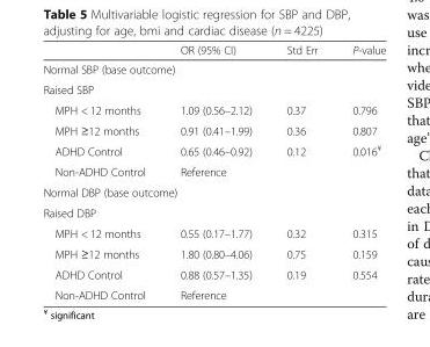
<table><thead><tr><td></td><td>OR (95% CI)</td><td>Std Err</td><td>P-value</td></tr></thead><tbody><tr><td colspan="4">Normal SBP (base outcome)</td></tr><tr><td colspan="4">Raised SBP</td></tr><tr><td>MPH &lt; 12 months</td><td>1.09 (0.56–2.12)</td><td>0.37</td><td>0.796</td></tr><tr><td>MPH ≥12 months</td><td>0.91 (0.41–1.99)</td><td>0.36</td><td>0.807</td></tr><tr><td>ADHD Control</td><td>0.65 (0.46–0.92)</td><td>0.12</td><td>0.016<sup>¥</sup></td></tr><tr><td>Non-ADHD Control</td><td>Reference</td><td></td><td></td></tr><tr><td colspan="4">Normal DBP (base outcome)</td></tr><tr><td colspan="4">Raised DBP</td></tr><tr><td>MPH &lt; 12 months</td><td>0.55 (0.17–1.77)</td><td>0.32</td><td>0.315</td></tr><tr><td>MPH ≥12 months</td><td>1.80 (0.80–4.06)</td><td>0.75</td><td>0.159</td></tr><tr><td>ADHD Control</td><td>0.88 (0.57–1.35)</td><td>0.19</td><td>0.554</td></tr><tr><td>Non-ADHD Control</td><td>Reference</td><td></td><td></td></tr></tbody></table>